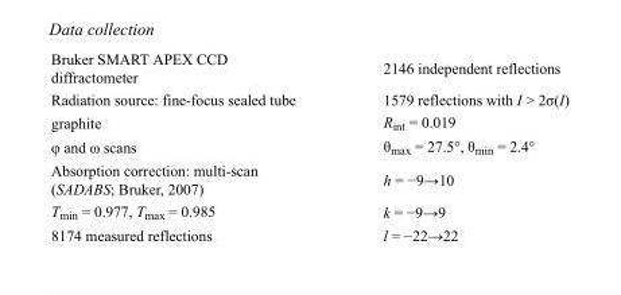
<table><tbody><tr><td>Bruker SMART APEX CCD diffractometer</td><td>2146 independent reflections</td></tr><tr><td>Radiation source: fine-focus sealed tube</td><td>1579 reflections with I &gt; 2σ(I)</td></tr><tr><td>graphite</td><td>R<sub>int</sub> = 0.019</td></tr><tr><td>φ and ω scans</td><td>θ<sub>max</sub> = 27.5°, θ<sub>min</sub> = 2.4°</td></tr><tr><td>Absorption correction: multi-scan (SADABS; Bruker, 2007)</td><td>h = −9→10</td></tr><tr><td>T<sub>min</sub> = 0.977, T<sub>max</sub> = 0.985</td><td>k = −9→9</td></tr><tr><td>8174 measured reflections</td><td>l = −22→22</td></tr></tbody></table>